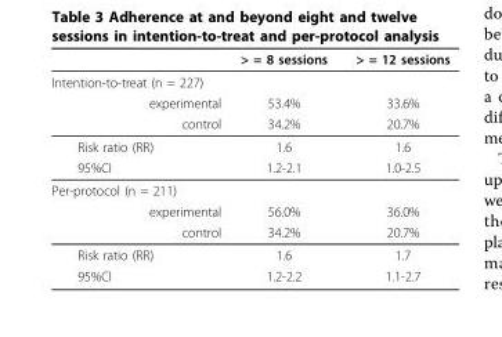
<table><thead><tr><td></td><td>&gt; = 8 sessions</td><td>&gt; = 12 sessions</td></tr></thead><tbody><tr><td colspan="3">Intention-to-treat (n = 227)</td></tr><tr><td>experimental</td><td>53.4%</td><td>33.6%</td></tr><tr><td>control</td><td>34.2%</td><td>20.7%</td></tr><tr><td>Risk ratio (RR)</td><td>1.6</td><td>1.6</td></tr><tr><td>95%CI</td><td>1.2-2.1</td><td>1.0-2.5</td></tr><tr><td colspan="3">Per-protocol (n = 211)</td></tr><tr><td>experimental</td><td>56.0%</td><td>36.0%</td></tr><tr><td>control</td><td>34.2%</td><td>20.7%</td></tr><tr><td>Risk ratio (RR)</td><td>1.6</td><td>1.7</td></tr><tr><td>95%CI</td><td>1.2-2.2</td><td>1.1-2.7</td></tr></tbody></table>